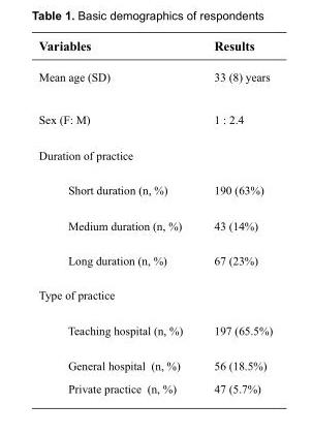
<table><thead><tr><td>Variables</td><td>Results</td></tr></thead><tbody><tr><td>Mean age (SD)</td><td>33 (8) years</td></tr><tr><td>Sex (F: M)</td><td>1 : 2.4</td></tr><tr><td colspan="2">Duration of practice</td></tr><tr><td>Short duration (n, %)</td><td>190 (63%)</td></tr><tr><td>Medium duration (n, %)</td><td>43 (14%)</td></tr><tr><td>Long duration (n, %)</td><td>67 (23%)</td></tr><tr><td colspan="2">Type of practice</td></tr><tr><td>Teaching hospital (n, %)</td><td>197 (65.5%)</td></tr><tr><td>General hospital (n, %)</td><td>56 (18.5%)</td></tr><tr><td>Private practice (n, %)</td><td>47 (5.7%)</td></tr></tbody></table>